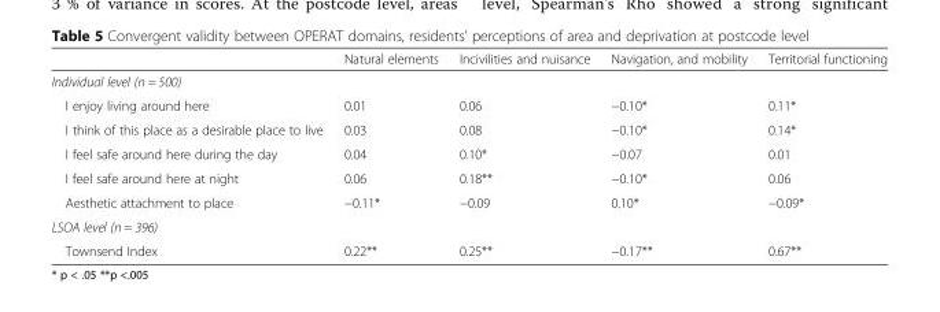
<table><thead><tr><td></td><td>Natural elements</td><td>Incivilities and nuisance</td><td>Navigation, and mobility</td><td>Territorial functioning</td></tr></thead><tbody><tr><td colspan="5">Individual level (n = 500)</td></tr><tr><td>I enjoy living around here</td><td>0.01</td><td>0.06</td><td>−0.10*</td><td>0.11*</td></tr><tr><td>I think of this place as a desirable place to live</td><td>0.03</td><td>0.08</td><td>−0.10*</td><td>0.14*</td></tr><tr><td>I feel safe around here during the day</td><td>0.04</td><td>0.10*</td><td>−0.07</td><td>0.01</td></tr><tr><td>I feel safe around here at night</td><td>0.06</td><td>0.18**</td><td>−0.10*</td><td>0.06</td></tr><tr><td>Aesthetic attachment to place</td><td>−0.11*</td><td>−0.09</td><td>0.10*</td><td>−0.09*</td></tr><tr><td colspan="5">LSOA level (n = 396)</td></tr><tr><td>Townsend Index</td><td>0.22**</td><td>0.25**</td><td>−0.17**</td><td>0.67**</td></tr></tbody></table>